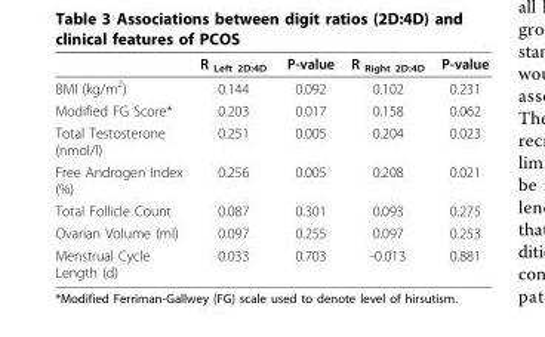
<table><thead><tr><td></td><td>R <sub>Left 2D:4D</sub></td><td>P-value</td><td>R <sub>Right 2D:4D</sub></td><td>P-value</td></tr></thead><tbody><tr><td>BMI (kg/m<sup>2</sup>)</td><td>0.144</td><td>0.092</td><td>0.102</td><td>0.231</td></tr><tr><td>Modified FG Score*</td><td>0.203</td><td>0.017</td><td>0.158</td><td>0.062</td></tr><tr><td>Total Testosterone (nmol/l)</td><td>0.251</td><td>0.005</td><td>0.204</td><td>0.023</td></tr><tr><td>Free Androgen Index (%)</td><td>0.256</td><td>0.005</td><td>0.208</td><td>0.021</td></tr><tr><td>Total Follicle Count</td><td>0.087</td><td>0.301</td><td>0.093</td><td>0.275</td></tr><tr><td>Ovarian Volume (ml)</td><td>0.097</td><td>0.255</td><td>0.097</td><td>0.253</td></tr><tr><td>Menstrual Cycle Length (d)</td><td>0.033</td><td>0.703</td><td>-0.013</td><td>0.881</td></tr></tbody></table>